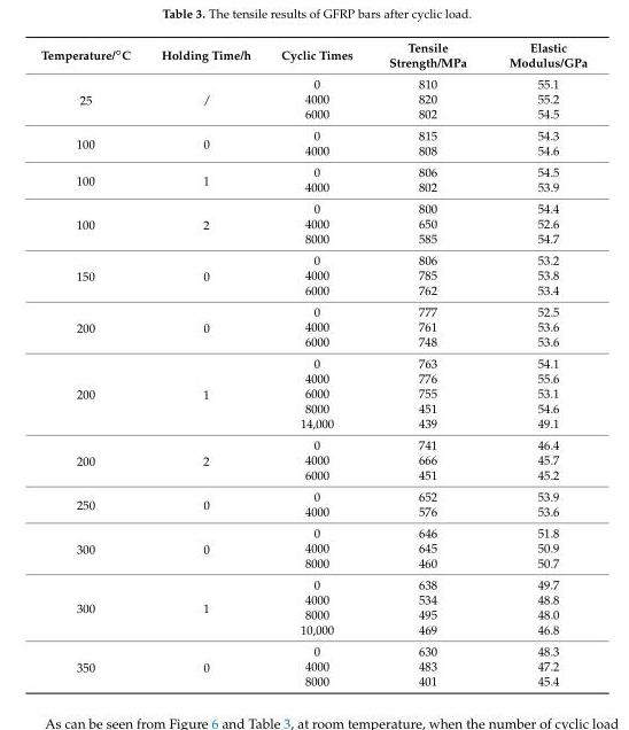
<table><thead><tr><td>Temperature/◦C</td><td>Holding Time/h</td><td>Cyclic Times</td><td>Tensile Strength/MPa</td><td>Elastic Modulus/GPa</td></tr></thead><tbody><tr><td rowspan="3">25</td><td rowspan="3">/</td><td>0</td><td>810</td><td>55.1</td></tr><tr><td>4000</td><td>820</td><td>55.2</td></tr><tr><td>6000</td><td>802</td><td>54.5</td></tr><tr><td rowspan="2">100</td><td rowspan="2">0</td><td>0</td><td>815</td><td>54.3</td></tr><tr><td>4000</td><td>808</td><td>54.6</td></tr><tr><td rowspan="2">100</td><td rowspan="2">1</td><td>0</td><td>806</td><td>54.5</td></tr><tr><td>4000</td><td>802</td><td>53.9</td></tr><tr><td rowspan="3">100</td><td rowspan="3">2</td><td>0</td><td>800</td><td>54.4</td></tr><tr><td>4000</td><td>650</td><td>52.6</td></tr><tr><td>8000</td><td>585</td><td>54.7</td></tr><tr><td rowspan="3">150</td><td rowspan="3">0</td><td>0</td><td>806</td><td>53.2</td></tr><tr><td>4000</td><td>785</td><td>53.8</td></tr><tr><td>6000</td><td>762</td><td>53.4</td></tr><tr><td rowspan="3">200</td><td rowspan="3">0</td><td>0</td><td>777</td><td>52.5</td></tr><tr><td>4000</td><td>761</td><td>53.6</td></tr><tr><td>6000</td><td>748</td><td>53.6</td></tr><tr><td rowspan="5">200</td><td rowspan="5">1</td><td>0</td><td>763</td><td>54.1</td></tr><tr><td>4000</td><td>776</td><td>55.6</td></tr><tr><td>6000</td><td>755</td><td>53.1</td></tr><tr><td>8000</td><td>451</td><td>54.6</td></tr><tr><td>14,000</td><td>439</td><td>49.1</td></tr><tr><td rowspan="3">200</td><td rowspan="3">2</td><td>0</td><td>741</td><td>46.4</td></tr><tr><td>4000</td><td>666</td><td>45.7</td></tr><tr><td>6000</td><td>451</td><td>45.2</td></tr><tr><td rowspan="2">250</td><td rowspan="2">0</td><td>0</td><td>652</td><td>53.9</td></tr><tr><td>4000</td><td>576</td><td>53.6</td></tr><tr><td rowspan="3">300</td><td rowspan="3">0</td><td>0</td><td>646</td><td>51.8</td></tr><tr><td>4000</td><td>645</td><td>50.9</td></tr><tr><td>8000</td><td>460</td><td>50.7</td></tr><tr><td rowspan="4">300</td><td rowspan="4">1</td><td>0</td><td>638</td><td>49.7</td></tr><tr><td>4000</td><td>534</td><td>48.8</td></tr><tr><td>8000</td><td>495</td><td>48.0</td></tr><tr><td>10,000</td><td>469</td><td>46.8</td></tr><tr><td rowspan="3">350</td><td rowspan="3">0</td><td>0</td><td>630</td><td>48.3</td></tr><tr><td>4000</td><td>483</td><td>47.2</td></tr><tr><td>8000</td><td>401</td><td>45.4</td></tr></tbody></table>